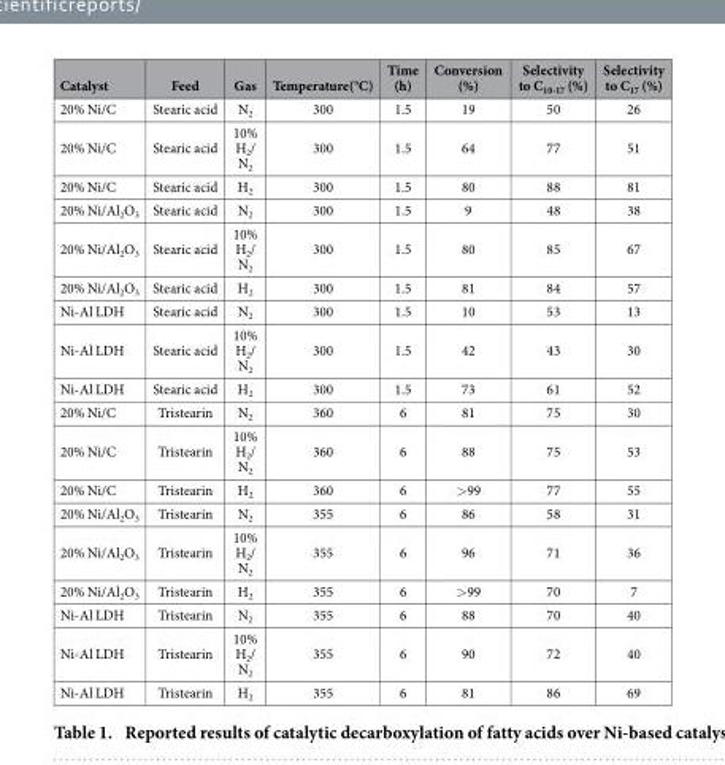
<table><thead><tr><td>Catalyst</td><td>Feed</td><td>Gas</td><td>Temperature(°C)</td><td>Time (h)</td><td>Conversion (%)</td><td>Selectivity to C<sub>10-17</sub> (%)</td><td>Selectivity to C<sub>17</sub> (%)</td></tr></thead><tbody><tr><td>20% Ni/C</td><td>Stearic acid</td><td>N<sub>2</sub></td><td>300</td><td>1.5</td><td>19</td><td>50</td><td>26</td></tr><tr><td>20% Ni/C</td><td>Stearic acid</td><td>10% H<sub>2</sub>/ N<sub>2</sub></td><td>300</td><td>1.5</td><td>64</td><td>77</td><td>51</td></tr><tr><td>20% Ni/C</td><td>Stearic acid</td><td>H<sub>2</sub></td><td>300</td><td>1.5</td><td>80</td><td>88</td><td>81</td></tr><tr><td>20% Ni/Al<sub>2</sub>O<sub>3</sub></td><td>Stearic acid</td><td>N<sub>2</sub></td><td>300</td><td>1.5</td><td>9</td><td>48</td><td>38</td></tr><tr><td>20% Ni/Al<sub>2</sub>O<sub>3</sub></td><td>Stearic acid</td><td>10% H<sub>2</sub>/ N<sub>2</sub></td><td>300</td><td>1.5</td><td>80</td><td>85</td><td>67</td></tr><tr><td>20% Ni/Al<sub>2</sub>O<sub>3</sub></td><td>Stearic acid</td><td>H<sub>2</sub></td><td>300</td><td>1.5</td><td>81</td><td>84</td><td>57</td></tr><tr><td>Ni-Al LDH</td><td>Stearic acid</td><td>N<sub>2</sub></td><td>300</td><td>1.5</td><td>10</td><td>53</td><td>13</td></tr><tr><td>Ni-Al LDH</td><td>Stearic acid</td><td>10% H<sub>2</sub>/ N<sub>2</sub></td><td>300</td><td>1.5</td><td>42</td><td>43</td><td>30</td></tr><tr><td>Ni-Al LDH</td><td>Stearic acid</td><td>H<sub>2</sub></td><td>300</td><td>1.5</td><td>73</td><td>61</td><td>52</td></tr><tr><td>20% Ni/C</td><td>Tristearin</td><td>N<sub>2</sub></td><td>360</td><td>6</td><td>81</td><td>75</td><td>30</td></tr><tr><td>20% Ni/C</td><td>Tristearin</td><td>10% H<sub>2</sub>/ N<sub>2</sub></td><td>360</td><td>6</td><td>88</td><td>75</td><td>53</td></tr><tr><td>20% Ni/C</td><td>Tristearin</td><td>H<sub>2</sub></td><td>360</td><td>6</td><td>&gt; 99</td><td>77</td><td>55</td></tr><tr><td>20% Ni/Al<sub>2</sub>O<sub>3</sub></td><td>Tristearin</td><td>N<sub>2</sub></td><td>355</td><td>6</td><td>86</td><td>58</td><td>31</td></tr><tr><td>20% Ni/Al<sub>2</sub>O<sub>3</sub></td><td>Tristearin</td><td>10% H<sub>2</sub>/ N<sub>2</sub></td><td>355</td><td>6</td><td>96</td><td>71</td><td>36</td></tr><tr><td>20% Ni/Al<sub>2</sub>O<sub>3</sub></td><td>Tristearin</td><td>H<sub>2</sub></td><td>355</td><td>6</td><td>&gt; 99</td><td>70</td><td>7</td></tr><tr><td>Ni-Al LDH</td><td>Tristearin</td><td>N<sub>2</sub></td><td>355</td><td>6</td><td>88</td><td>70</td><td>40</td></tr><tr><td>Ni-Al LDH</td><td>Tristearin</td><td>10% H<sub>2</sub>/ N<sub>2</sub></td><td>355</td><td>6</td><td>90</td><td>72</td><td>40</td></tr><tr><td>Ni-Al LDH</td><td>Tristearin</td><td>H<sub>2</sub></td><td>355</td><td>6</td><td>81</td><td>86</td><td>69</td></tr></tbody></table>